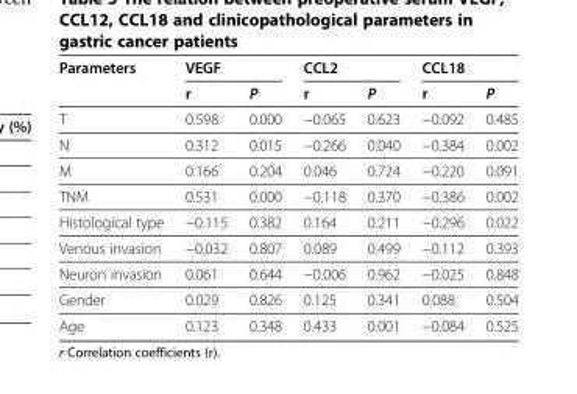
<table><thead><tr><td rowspan="2">Parameters</td><td colspan="2">VEGF</td><td colspan="2">CCL2</td><td colspan="2">CCL18</td></tr><tr><td>r</td><td>P</td><td>r</td><td>P</td><td>r</td><td>P</td></tr></thead><tbody><tr><td>T</td><td>0.598</td><td>0.000</td><td>−0.065</td><td>0.623</td><td>−0.092</td><td>0.485</td></tr><tr><td>N</td><td>0.312</td><td>0.015</td><td>−0.266</td><td>0.040</td><td>−0.384</td><td>0.002</td></tr><tr><td>M</td><td>0.166</td><td>0.204</td><td>0.046</td><td>0.724</td><td>−0.220</td><td>0.091</td></tr><tr><td>TNM</td><td>0.531</td><td>0.000</td><td>−0.118</td><td>0.370</td><td>−0.386</td><td>0.002</td></tr><tr><td>Histological type</td><td>−0.115</td><td>0.382</td><td>0.164</td><td>0.211</td><td>−0.296</td><td>0.022</td></tr><tr><td>Venous invasion</td><td>−0.032</td><td>0.807</td><td>0.089</td><td>0.499</td><td>−0.112</td><td>0.393</td></tr><tr><td>Neuron invasion</td><td>0.061</td><td>0.644</td><td>−0.006</td><td>0.962</td><td>−0.025</td><td>0.848</td></tr><tr><td>Gender</td><td>0.029</td><td>0.826</td><td>0.125</td><td>0.341</td><td>0.088</td><td>0.504</td></tr><tr><td>Age</td><td>0.123</td><td>0.348</td><td>0.433</td><td>0.001</td><td>−0.084</td><td>0.525</td></tr></tbody></table>